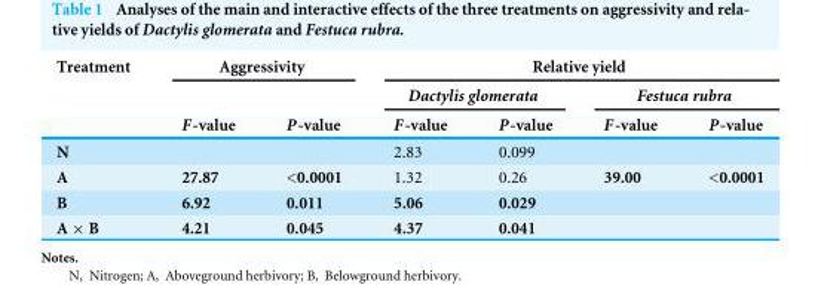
<table><thead><tr><td rowspan="3">Treatment</td><td colspan="2">Aggressivity</td><td colspan="4">Relative yield</td></tr><tr><td rowspan="2">F-value</td><td rowspan="2">P-value</td><td colspan="2">Dactylis glomerata</td><td colspan="2">Festuca rubra</td></tr><tr><td>F-value</td><td>P-value</td><td>F-value</td><td>P-value</td></tr></thead><tbody><tr><td>N</td><td></td><td></td><td>2.83</td><td>0.099</td><td></td><td></td></tr><tr><td>A</td><td>27.87</td><td>&lt;0.0001</td><td>1.32</td><td>0.26</td><td>39.00</td><td>&lt;0.0001</td></tr><tr><td>B</td><td>6.92</td><td>0.011</td><td>5.06</td><td>0.029</td><td></td><td></td></tr><tr><td>A × B</td><td>4.21</td><td>0.045</td><td>4.37</td><td>0.041</td><td></td><td></td></tr></tbody></table>